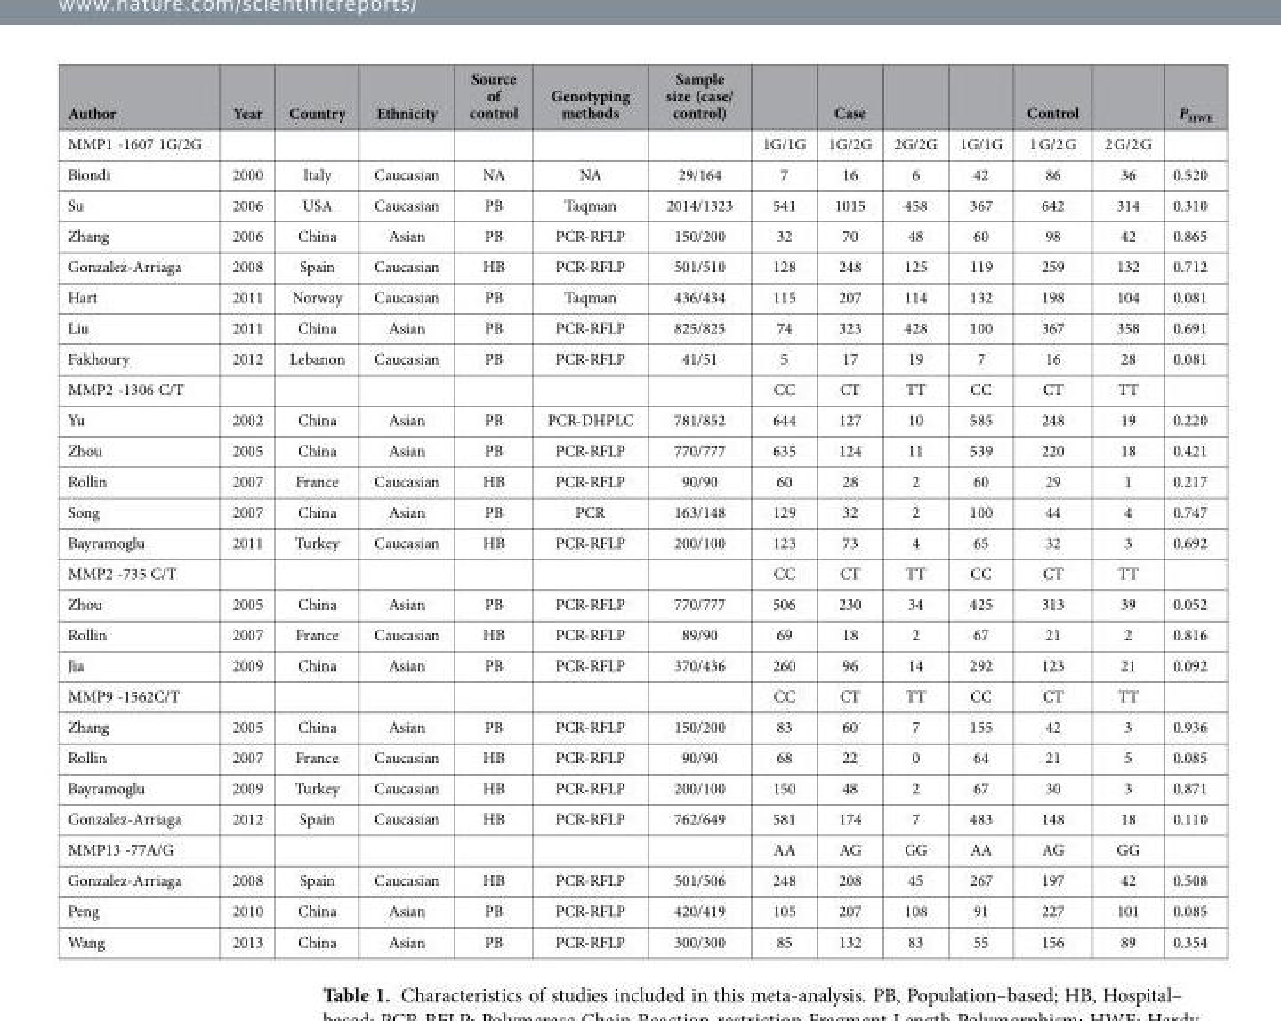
<table><thead><tr><td>Author</td><td>Year</td><td>Country</td><td>Ethnicity</td><td>Source of control</td><td>Genotyping methods</td><td>Sample size (case/ control)</td><td></td><td>Case</td><td></td><td></td><td>Control</td><td></td><td>P<sub>HWE</sub></td></tr></thead><tbody><tr><td>MMP1 -1607 1G/2G</td><td></td><td></td><td></td><td></td><td></td><td></td><td>1G/1G</td><td>1G/2G</td><td>2G/2G</td><td>1G/1G</td><td>1 G/2 G</td><td>2 G/2 G</td><td></td></tr><tr><td>Biondi</td><td>2000</td><td>Italy</td><td>Caucasian</td><td>NA</td><td>NA</td><td>29/164</td><td>7</td><td>16</td><td>6</td><td>42</td><td>86</td><td>36</td><td>0.520</td></tr><tr><td>Su</td><td>2006</td><td>USA</td><td>Caucasian</td><td>PB</td><td>Taqman</td><td>2014/1323</td><td>541</td><td>1015</td><td>458</td><td>367</td><td>642</td><td>314</td><td>0.310</td></tr><tr><td>Zhang</td><td>2006</td><td>China</td><td>Asian</td><td>PB</td><td>PCR-RFLP</td><td>150/200</td><td>32</td><td>70</td><td>48</td><td>60</td><td>98</td><td>42</td><td>0.865</td></tr><tr><td>Gonzalez-Arriaga</td><td>2008</td><td>Spain</td><td>Caucasian</td><td>HB</td><td>PCR-RFLP</td><td>501/510</td><td>128</td><td>248</td><td>125</td><td>119</td><td>259</td><td>132</td><td>0.712</td></tr><tr><td>Hart</td><td>2011</td><td>Norway</td><td>Caucasian</td><td>PB</td><td>Taqman</td><td>436/434</td><td>115</td><td>207</td><td>114</td><td>132</td><td>198</td><td>104</td><td>0.081</td></tr><tr><td>Liu</td><td>2011</td><td>China</td><td>Asian</td><td>PB</td><td>PCR-RFLP</td><td>825/825</td><td>74</td><td>323</td><td>428</td><td>100</td><td>367</td><td>358</td><td>0.691</td></tr><tr><td>Fakhoury</td><td>2012</td><td>Lebanon</td><td>Caucasian</td><td>PB</td><td>PCR-RFLP</td><td>41/51</td><td>5</td><td>17</td><td>19</td><td>7</td><td>16</td><td>28</td><td>0.081</td></tr><tr><td>MMP2 -1306 C/T</td><td></td><td></td><td></td><td></td><td></td><td></td><td>CC</td><td>CT</td><td>TT</td><td>CC</td><td>CT</td><td>TT</td><td></td></tr><tr><td>Yu</td><td>2002</td><td>China</td><td>Asian</td><td>PB</td><td>PCR-DHPLC</td><td>781/852</td><td>644</td><td>127</td><td>10</td><td>585</td><td>248</td><td>19</td><td>0.220</td></tr><tr><td>Zhou</td><td>2005</td><td>China</td><td>Asian</td><td>PB</td><td>PCR-RFLP</td><td>770/777</td><td>635</td><td>124</td><td>11</td><td>539</td><td>220</td><td>18</td><td>0.421</td></tr><tr><td>Rollin</td><td>2007</td><td>France</td><td>Caucasian</td><td>HB</td><td>PCR-RFLP</td><td>90/90</td><td>60</td><td>28</td><td>2</td><td>60</td><td>29</td><td>1</td><td>0.217</td></tr><tr><td>Song</td><td>2007</td><td>China</td><td>Asian</td><td>PB</td><td>PCR</td><td>163/148</td><td>129</td><td>32</td><td>2</td><td>100</td><td>44</td><td>4</td><td>0.747</td></tr><tr><td>Bayramoglu</td><td>2011</td><td>Turkey</td><td>Caucasian</td><td>HB</td><td>PCR-RFLP</td><td>200/100</td><td>123</td><td>73</td><td>4</td><td>65</td><td>32</td><td>3</td><td>0.692</td></tr><tr><td>MMP2 -735 C/T</td><td></td><td></td><td></td><td></td><td></td><td></td><td>CC</td><td>CT</td><td>TT</td><td>CC</td><td>CT</td><td>TT</td><td></td></tr><tr><td>Zhou</td><td>2005</td><td>China</td><td>Asian</td><td>PB</td><td>PCR-RFLP</td><td>770/777</td><td>506</td><td>230</td><td>34</td><td>425</td><td>313</td><td>39</td><td>0.052</td></tr><tr><td>Rollin</td><td>2007</td><td>France</td><td>Caucasian</td><td>HB</td><td>PCR-RFLP</td><td>89/90</td><td>69</td><td>18</td><td>2</td><td>67</td><td>21</td><td>2</td><td>0.816</td></tr><tr><td>Jia</td><td>2009</td><td>China</td><td>Asian</td><td>PB</td><td>PCR-RFLP</td><td>370/436</td><td>260</td><td>96</td><td>14</td><td>292</td><td>123</td><td>21</td><td>0.092</td></tr><tr><td>MMP9 -1562C/T</td><td></td><td></td><td></td><td></td><td></td><td></td><td>CC</td><td>CT</td><td>TT</td><td>CC</td><td>CT</td><td>TT</td><td></td></tr><tr><td>Zhang</td><td>2005</td><td>China</td><td>Asian</td><td>PB</td><td>PCR-RFLP</td><td>150/200</td><td>83</td><td>60</td><td>7</td><td>155</td><td>42</td><td>3</td><td>0.936</td></tr><tr><td>Rollin</td><td>2007</td><td>France</td><td>Caucasian</td><td>HB</td><td>PCR-RFLP</td><td>90/90</td><td>68</td><td>22</td><td>0</td><td>64</td><td>21</td><td>5</td><td>0.085</td></tr><tr><td>Bayramoglu</td><td>2009</td><td>Turkey</td><td>Caucasian</td><td>HB</td><td>PCR-RFLP</td><td>200/100</td><td>150</td><td>48</td><td>2</td><td>67</td><td>30</td><td>3</td><td>0.871</td></tr><tr><td>Gonzalez-Arriaga</td><td>2012</td><td>Spain</td><td>Caucasian</td><td>HB</td><td>PCR-RFLP</td><td>762/649</td><td>581</td><td>174</td><td>7</td><td>483</td><td>148</td><td>18</td><td>0.110</td></tr><tr><td>MMP13 -77A/G</td><td></td><td></td><td></td><td></td><td></td><td></td><td>AA</td><td>AG</td><td>GG</td><td>AA</td><td>AG</td><td>GG</td><td></td></tr><tr><td>Gonzalez-Arriaga</td><td>2008</td><td>Spain</td><td>Caucasian</td><td>HB</td><td>PCR-RFLP</td><td>501/506</td><td>248</td><td>208</td><td>45</td><td>267</td><td>197</td><td>42</td><td>0.508</td></tr><tr><td>Peng</td><td>2010</td><td>China</td><td>Asian</td><td>PB</td><td>PCR-RFLP</td><td>420/419</td><td>105</td><td>207</td><td>108</td><td>91</td><td>227</td><td>101</td><td>0.085</td></tr><tr><td>Wang</td><td>2013</td><td>China</td><td>Asian</td><td>PB</td><td>PCR-RFLP</td><td>300/300</td><td>85</td><td>132</td><td>83</td><td>55</td><td>156</td><td>89</td><td>0.354</td></tr></tbody></table>